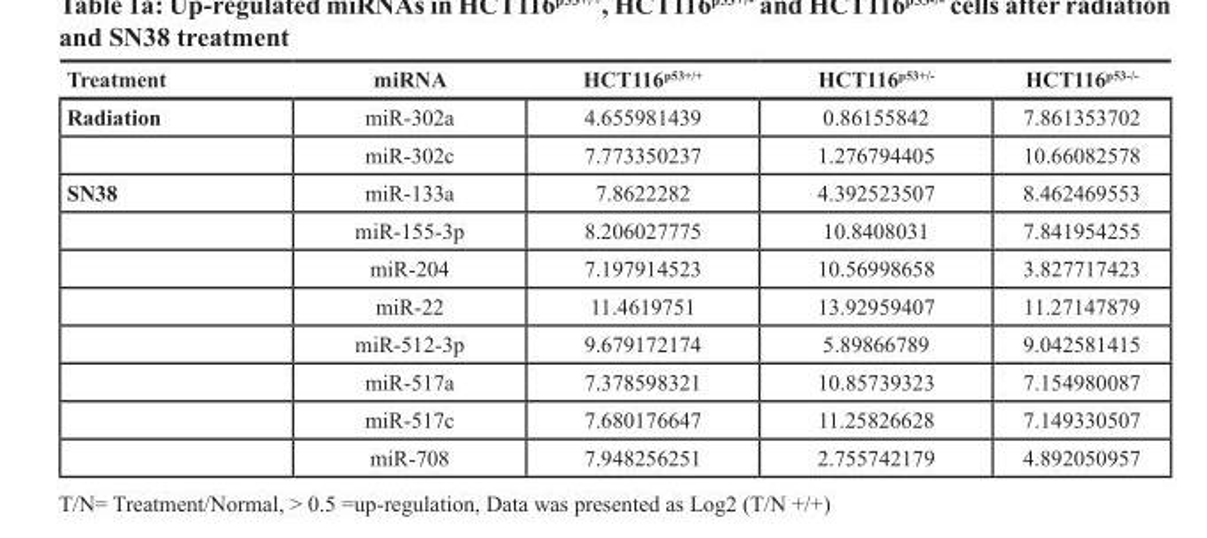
<table><thead><tr><td>Treatment</td><td>miRNA</td><td>HCT116<sup>p53+/+</sup></td><td>HCT116<sup>p53+/-</sup></td><td>HCT116<sup>p53-/-</sup></td></tr></thead><tbody><tr><td rowspan="2">Radiation</td><td>miR-302a</td><td>4.655981439</td><td>0.86155842</td><td>7.861353702</td></tr><tr><td>miR-302c</td><td>7.773350237</td><td>1.276794405</td><td>10.66082578</td></tr><tr><td rowspan="8">SN38</td><td>miR-133a</td><td>7.8622282</td><td>4.392523507</td><td>8.462469553</td></tr><tr><td>miR-155-3p</td><td>8.206027775</td><td>10.8408031</td><td>7.841954255</td></tr><tr><td>miR-204</td><td>7.197914523</td><td>10.56998658</td><td>3.827717423</td></tr><tr><td>miR-22</td><td>11.4619751</td><td>13.92959407</td><td>11.27147879</td></tr><tr><td>miR-512-3p</td><td>9.679172174</td><td>5.89866789</td><td>9.042581415</td></tr><tr><td>miR-517a</td><td>7.378598321</td><td>10.85739323</td><td>7.154980087</td></tr><tr><td>miR-517c</td><td>7.680176647</td><td>11.25826628</td><td>7.149330507</td></tr><tr><td>miR-708</td><td>7.948256251</td><td>2.755742179</td><td>4.892050957</td></tr></tbody></table>